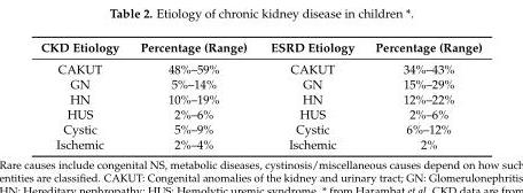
<table><thead><tr><td>CKD Etiology</td><td>Percentage (Range)</td><td>ESRD Etiology</td><td>Percentage (Range)</td></tr></thead><tbody><tr><td>CAKUT</td><td>48%–59%</td><td>CAKUT</td><td>34%–43%</td></tr><tr><td>GN</td><td>5%–14%</td><td>GN</td><td>15%–29%</td></tr><tr><td>HN</td><td>10%–19%</td><td>HN</td><td>12%–22%</td></tr><tr><td>HUS</td><td>2%–6%</td><td>HUS</td><td>2%–6%</td></tr><tr><td>Cystic</td><td>5%–9%</td><td>Cystic</td><td>6%–12%</td></tr><tr><td>Ischemic</td><td>2%–4%</td><td>Ischemic</td><td>2%</td></tr></tbody></table>